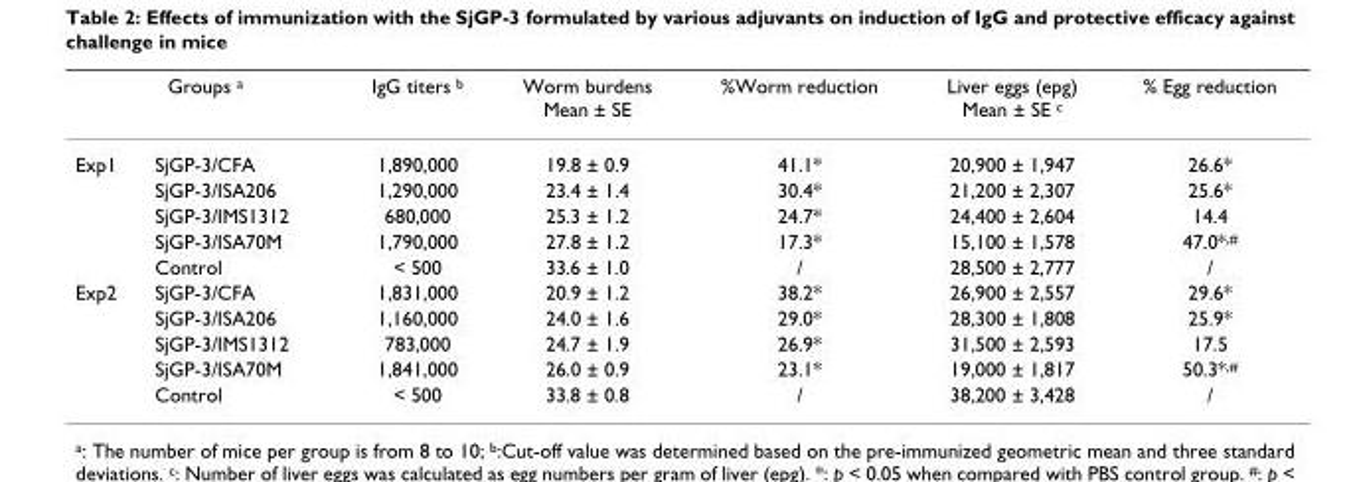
<table><thead><tr><td colspan="2">Groups <sup>a</sup></td><td rowspan="2">IgG titers <sup>b</sup> 1,890,000</td><td rowspan="2">Worm burdens Mean ± SE 19.8 ± 0.9</td><td rowspan="2">%Worm reduction 41.1*</td><td rowspan="2">Liver eggs (epg) Mean ± SE <sup>c</sup> 20,900 ± 1,947</td><td rowspan="2">% Egg reduction 26.6*</td></tr><tr><td>Exp1</td><td>SjGP-3/CFA</td></tr></thead><tbody><tr><td></td><td>SjGP-3/ISA206</td><td>1,290,000</td><td>23.4 ± 1.4</td><td>30.4*</td><td>21,200 ± 2,307</td><td>25.6*</td></tr><tr><td></td><td>SjGP-3/IMS1312</td><td>680,000</td><td>25.3 ± 1.2</td><td>24.7*</td><td>24,400 ± 2,604</td><td>14.4</td></tr><tr><td></td><td>SjGP-3/ISA70M</td><td>1,790,000</td><td>27.8 ± 1.2</td><td>17.3*</td><td>15,100 ± 1,578</td><td>47.0*<sup>,#</sup></td></tr><tr><td></td><td>Control</td><td>&lt; 500</td><td>33.6 ± 1.0</td><td>/</td><td>28,500 ± 2,777</td><td>/</td></tr><tr><td rowspan="5">Exp2</td><td>SjGP-3/CFA</td><td>1,831,000</td><td>20.9 ± 1.2</td><td>38.2*</td><td>26,900 ± 2,557</td><td>29.6*</td></tr><tr><td>SjGP-3/ISA206</td><td>1,160,000</td><td>24.0 ± 1.6</td><td>29.0*</td><td>28,300 ± 1,808</td><td>25.9*</td></tr><tr><td>SjGP-3/IMS1312</td><td>783,000</td><td>24.7 ± 1.9</td><td>26.9*</td><td>31,500 ± 2,593</td><td>17.5</td></tr><tr><td>SjGP-3/ISA70M</td><td>1,841,000</td><td>26.0 ± 0.9</td><td>23.1*</td><td>19,000 ± 1,817</td><td>50.3*<sup>,#</sup></td></tr><tr><td>Control</td><td>&lt; 500</td><td>33.8 ± 0.8</td><td>/</td><td>38,200 ± 3,428</td><td>/</td></tr></tbody></table>